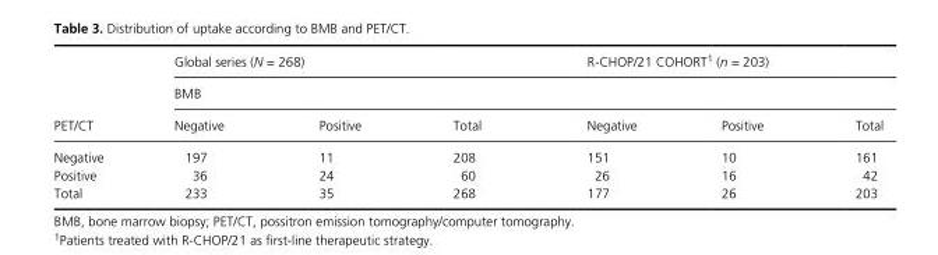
<table><thead><tr><td rowspan="3">PET/CT</td><td colspan="3">Global series (N = 268)</td><td colspan="3">R- CHOP/21 COHORT1 (n = 203)</td></tr><tr><td colspan="6">BMB</td></tr><tr><td>Negative</td><td>Positive</td><td>Total</td><td>Negative</td><td>Positive</td><td>Total</td></tr></thead><tbody><tr><td>Negative</td><td>197</td><td>11</td><td>208</td><td>151</td><td>10</td><td>161</td></tr><tr><td>Positive</td><td>36</td><td>24</td><td>60</td><td>26</td><td>16</td><td>42</td></tr><tr><td>Total</td><td>233</td><td>35</td><td>268</td><td>177</td><td>26</td><td>203</td></tr></tbody></table>